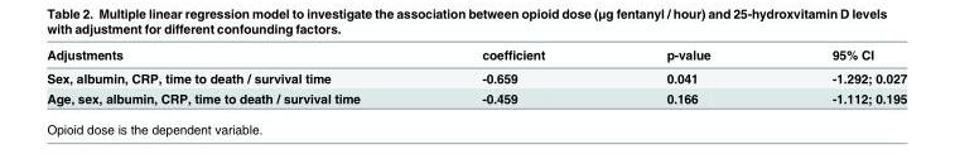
<table><thead><tr><td>Adjustments</td><td>coefficient</td><td>p-value</td><td>95% CI</td></tr></thead><tbody><tr><td>Sex, albumin, CRP, time to death / survival time</td><td>-0.659</td><td>0.041</td><td>-1.292; 0.027</td></tr><tr><td>Age, sex, albumin, CRP, time to death / survival time</td><td>-0.459</td><td>0.166</td><td>-1.112; 0.195</td></tr></tbody></table>